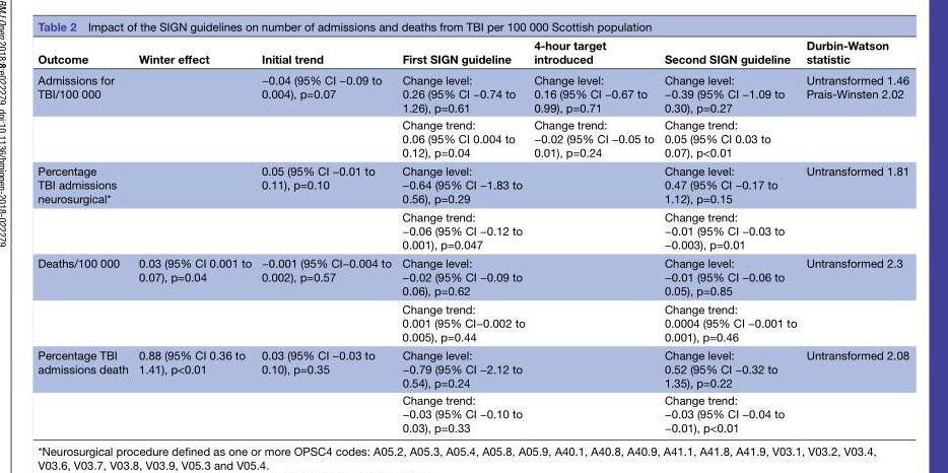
<table><thead><tr><td>Outcome</td><td>Winter effect</td><td>Initial trend</td><td>First SIGN guideline</td><td>4-hour target introduced</td><td>Second SIGN guideline</td><td>Durbin-Watson statistic</td></tr></thead><tbody><tr><td rowspan="2">Admissions for TBI/100 000</td><td></td><td>−0.04 (95% CI −0.09 to 0.004), p=0.07</td><td>Change level: 0.26 (95% CI −0.74 to 1.26), p=0.61</td><td>Change level: 0.16 (95% CI −0.67 to 0.99), p=0.71</td><td>Change level: −0.39 (95% CI −1.09 to 0.30), p=0.27</td><td>Untransformed 1.46 Prais-Winsten 2.02</td></tr><tr><td></td><td></td><td>Change trend: 0.06 (95% CI 0.004 to 0.12), p=0.04</td><td>Change trend: −0.02 (95% CI −0.05 to 0.01), p=0.24</td><td>Change trend: 0.05 (95% CI 0.03 to 0.07), p&lt;0.01</td><td></td></tr><tr><td rowspan="2">Percentage TBI admissions neurosurgical*</td><td></td><td>0.05 (95% CI −0.01 to 0.11), p=0.10</td><td>Change level: −0.64 (95% CI −1.83 to 0.56), p=0.29</td><td></td><td>Change level: 0.47 (95% CI −0.17 to 1.12), p=0.15</td><td>Untransformed 1.81</td></tr><tr><td></td><td></td><td>Change trend: −0.06 (95% CI −0.12 to 0.001), p=0.047</td><td></td><td>Change trend: −0.01 (95% CI −0.03 to −0.003), p=0.01</td><td></td></tr><tr><td rowspan="2">Deaths/100 000</td><td>0.03 (95% CI 0.001 to 0.07), p=0.04</td><td>−0.001 (95% CI−0.004 to 0.002), p=0.57</td><td>Change level: −0.02 (95% CI −0.09 to 0.06), p=0.62</td><td></td><td>Change level: −0.01 (95% CI −0.06 to 0.05), p=0.85</td><td>Untransformed 2.3</td></tr><tr><td></td><td></td><td>Change trend: 0.001 (95% CI−0.002 to 0.005), p=0.44</td><td></td><td>Change trend: 0.0004 (95% CI −0.001 to 0.001), p=0.46</td><td></td></tr><tr><td rowspan="2">Percentage TBI admissions death</td><td>0.88 (95% CI 0.36 to 1.41), p&lt;0.01</td><td>0.03 (95% CI −0.03 to 0.10), p=0.35</td><td>Change level: −0.79 (95% CI −2.12 to 0.54), p=0.24</td><td></td><td>Change level: 0.52 (95% CI −0.32 to 1.35), p=0.22</td><td>Untransformed 2.08</td></tr><tr><td></td><td></td><td>Change trend: −0.03 (95% CI −0.10 to 0.03), p=0.33</td><td></td><td>Change trend: −0.03 (95% CI −0.04 to −0.01), p&lt;0.01</td><td></td></tr></tbody></table>